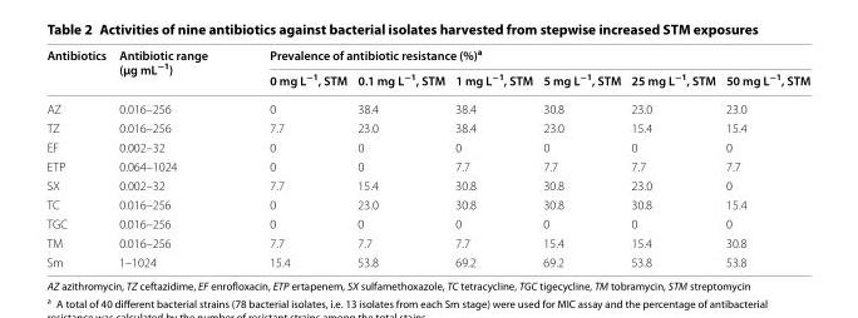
<table><thead><tr><td rowspan="2">Antibiotics</td><td rowspan="2">Antibiotic range (µg mL<sup>−1</sup>)</td><td colspan="6">Prevalence of antibiotic resistance (%)<sup>a</sup></td></tr><tr><td>0 mg L<sup>−1</sup>, STM</td><td>0.1 mg L<sup>−1</sup>, STM</td><td>1 mg L<sup>−1</sup>, STM</td><td>5 mg L<sup>−1</sup>, STM</td><td>25 mg L<sup>−1</sup>, STM</td><td>50 mg L<sup>−1</sup>, STM</td></tr></thead><tbody><tr><td>AZ</td><td>0.016–256</td><td>0</td><td>38.4</td><td>38.4</td><td>30.8</td><td>23.0</td><td>23.0</td></tr><tr><td>TZ</td><td>0.016–256</td><td>7.7</td><td>23.0</td><td>38.4</td><td>23.0</td><td>15.4</td><td>15.4</td></tr><tr><td>EF</td><td>0.002–32</td><td>0</td><td>0</td><td>0</td><td>0</td><td>0</td><td>0</td></tr><tr><td>ETP</td><td>0.064–1024</td><td>0</td><td>0</td><td>7.7</td><td>7.7</td><td>7.7</td><td>7.7</td></tr><tr><td>SX</td><td>0.002–32</td><td>7.7</td><td>15.4</td><td>30.8</td><td>30.8</td><td>23.0</td><td>0</td></tr><tr><td>TC</td><td>0.016–256</td><td>0</td><td>23.0</td><td>30.8</td><td>30.8</td><td>30.8</td><td>15.4</td></tr><tr><td>TGC</td><td>0.016–256</td><td>0</td><td>0</td><td>0</td><td>0</td><td>0</td><td>0</td></tr><tr><td>TM</td><td>0.016–256</td><td>7.7</td><td>7.7</td><td>7.7</td><td>15.4</td><td>15.4</td><td>30.8</td></tr><tr><td>Sm</td><td>1–1024</td><td>15.4</td><td>53.8</td><td>69.2</td><td>69.2</td><td>53.8</td><td>53.8</td></tr></tbody></table>